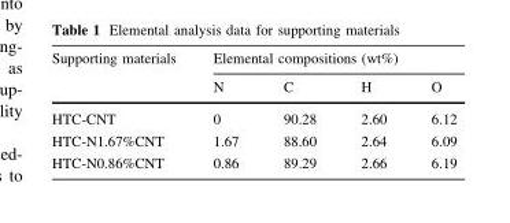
<table><thead><tr><td rowspan="2">Supporting materials</td><td colspan="4">Elemental compositions (wt%)</td></tr><tr><td>N</td><td>C</td><td>H</td><td>O</td></tr></thead><tbody><tr><td>HTC-CNT</td><td>0</td><td>90.28</td><td>2.60</td><td>6.12</td></tr><tr><td>HTC-N1.67%CNT</td><td>1.67</td><td>88.60</td><td>2.64</td><td>6.09</td></tr><tr><td>HTC-N0.86%CNT</td><td>0.86</td><td>89.29</td><td>2.66</td><td>6.19</td></tr></tbody></table>